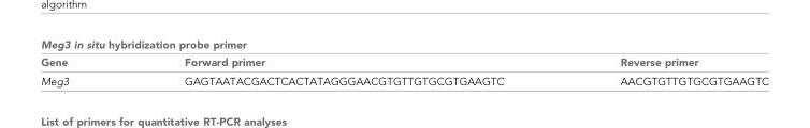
<table><thead><tr><td colspan="3">Meg3 in situ hybridization probe primer</td></tr><tr><td>Gene</td><td>Forward primer</td><td>Reverse primer</td></tr></thead><tbody><tr><td>Meg3</td><td>GAGTAATACGACTCACTATAGGGAACGTGTTGTGCGTGAAGTC</td><td>AACGTGTTGTGCGTGAAGTC</td></tr></tbody></table>